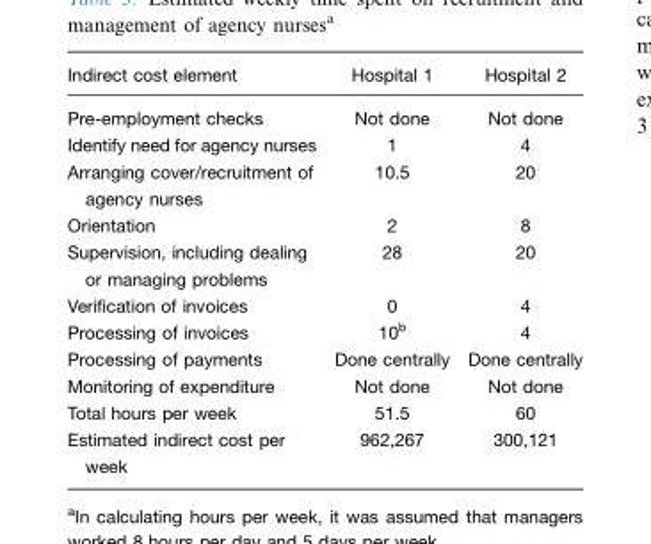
<table><thead><tr><td>Indirect cost element</td><td>Hospital 1</td><td>Hospital 2</td></tr></thead><tbody><tr><td>Pre-employment checks</td><td>Not done</td><td>Not done</td></tr><tr><td>Identify need for agency nurses</td><td>1</td><td>4</td></tr><tr><td>Arranging cover/recruitment of agency nurses</td><td>10.5</td><td>20</td></tr><tr><td>Orientation</td><td>2</td><td>8</td></tr><tr><td>Supervision, including dealing or managing problems</td><td>28</td><td>20</td></tr><tr><td>Verification of invoices</td><td>0</td><td>4</td></tr><tr><td>Processing of invoices</td><td>10b</td><td>4</td></tr><tr><td>Processing of payments</td><td>Done centrally</td><td>Done centrally</td></tr><tr><td>Monitoring of expenditure</td><td>Not done</td><td>Not done</td></tr><tr><td>Total hours per week</td><td>51.5</td><td>60</td></tr><tr><td>Estimated indirect cost per week</td><td>962,267</td><td>300,121</td></tr></tbody></table>